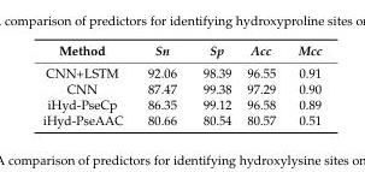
<table><thead><tr><td>Method</td><td>Sn</td><td>Sp</td><td>Acc</td><td>Mcc</td></tr></thead><tbody><tr><td>CNN+LSTM</td><td>92.06</td><td>98.39</td><td>96.55</td><td>0.91</td></tr><tr><td>CNN</td><td>87.47</td><td>99.38</td><td>97.29</td><td>0.90</td></tr><tr><td>iHyd-PseCp</td><td>86.35</td><td>99.12</td><td>96.58</td><td>0.89</td></tr><tr><td>iHyd-PseAAC</td><td>80.66</td><td>80.54</td><td>80.57</td><td>0.51</td></tr></tbody></table>